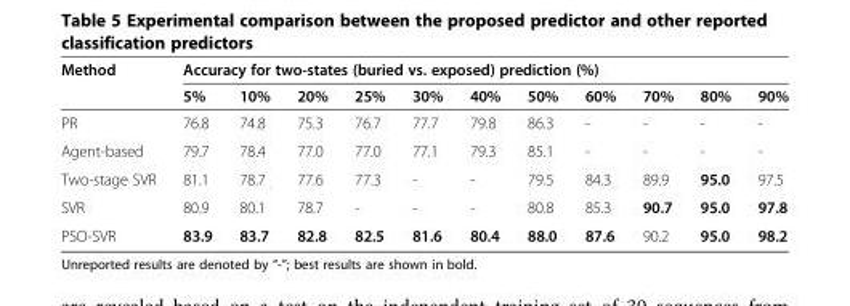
<table><thead><tr><td rowspan="2">Method</td><td colspan="11">Accuracy for two-states (buried vs. exposed) prediction (%)</td></tr><tr><td>5%</td><td>10%</td><td>20%</td><td>25%</td><td>30%</td><td>40%</td><td>50%</td><td>60%</td><td>70%</td><td>80%</td><td>90%</td></tr></thead><tbody><tr><td>PR</td><td>76.8</td><td>74.8</td><td>75.3</td><td>76.7</td><td>77.7</td><td>79.8</td><td>86.3</td><td>-</td><td>-</td><td>-</td><td>-</td></tr><tr><td>Agent-based</td><td>79.7</td><td>78.4</td><td>77.0</td><td>77.0</td><td>77.1</td><td>79.3</td><td>85.1</td><td>-</td><td>-</td><td>-</td><td>-</td></tr><tr><td>Two-stage SVR</td><td>81.1</td><td>78.7</td><td>77.6</td><td>77.3</td><td>-</td><td>-</td><td>79.5</td><td>84.3</td><td>89.9</td><td>95.0</td><td>97.5</td></tr><tr><td>SVR</td><td>80.9</td><td>80.1</td><td>78.7</td><td>-</td><td>-</td><td>-</td><td>80.8</td><td>85.3</td><td>90.7</td><td>95.0</td><td>97.8</td></tr><tr><td>PSO-SVR</td><td>83.9</td><td>83.7</td><td>82.8</td><td>82.5</td><td>81.6</td><td>80.4</td><td>88.0</td><td>87.6</td><td>90.2</td><td>95.0</td><td>98.2</td></tr></tbody></table>